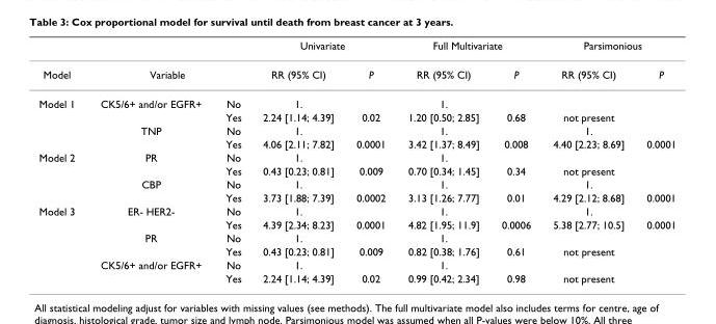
<table><thead><tr><td rowspan="2">Model</td><td></td><td></td><td colspan="2">Univariate</td><td colspan="2">Full Multivariate</td><td colspan="2">Parsimonious</td></tr><tr><td colspan="2">Variable</td><td>RR (95% CI)</td><td>P</td><td>RR (95% CI)</td><td>P</td><td>RR (95% CI)</td><td>P</td></tr></thead><tbody><tr><td rowspan="4">Model 1</td><td>CK5/6+ and/or EGFR+</td><td>No</td><td>1.</td><td></td><td>1.</td><td></td><td></td><td></td></tr><tr><td></td><td>Yes</td><td>2.24 [1.14; 4.39]</td><td>0.02</td><td>1.20 [0.50; 2.85]</td><td>0.68</td><td>not present</td><td></td></tr><tr><td>TNP</td><td>No</td><td>1.</td><td></td><td>1.</td><td></td><td>1.</td><td></td></tr><tr><td></td><td>Yes</td><td>4.06 [2.11; 7.82]</td><td>0.0001</td><td>3.42 [1.37; 8.49]</td><td>0.008</td><td>4.40 [2.23; 8.69]</td><td>0.0001</td></tr><tr><td rowspan="4">Model 2</td><td>PR</td><td>No</td><td>1.</td><td></td><td>1.</td><td></td><td></td><td></td></tr><tr><td></td><td>Yes</td><td>0.43 [0.23; 0.81]</td><td>0.009</td><td>0.70 [0.34; 1.45]</td><td>0.34</td><td>not present</td><td></td></tr><tr><td>CBP</td><td>No</td><td>1.</td><td></td><td>1.</td><td></td><td>1.</td><td></td></tr><tr><td></td><td>Yes</td><td>3.73 [1.88; 7.39]</td><td>0.0002</td><td>3.13 [1.26; 7.77]</td><td>0.01</td><td>4.29 [2.12; 8.68]</td><td>0.0001</td></tr><tr><td rowspan="6">Model 3</td><td>ER- HER2-</td><td>No</td><td>1.</td><td></td><td>1.</td><td></td><td>1.</td><td></td></tr><tr><td></td><td>Yes</td><td>4.39 [2.34; 8.23]</td><td>0.0001</td><td>4.82 [1.95; 11.9]</td><td>0.0006</td><td>5.38 [2.77; 10.5]</td><td>0.0001</td></tr><tr><td>PR</td><td>No</td><td>1.</td><td></td><td>1.</td><td></td><td></td><td></td></tr><tr><td></td><td>Yes</td><td>0.43 [0.23; 0.81]</td><td>0.009</td><td>0.82 [0.38; 1.76]</td><td>0.61</td><td>not present</td><td></td></tr><tr><td>CK5/6+ and/or EGFR+</td><td>No</td><td>1.</td><td></td><td>1.</td><td></td><td></td><td></td></tr><tr><td></td><td>Yes</td><td>2.24 [1.14; 4.39]</td><td>0.02</td><td>0.99 [0.42; 2.34]</td><td>0.98</td><td>not present</td><td></td></tr></tbody></table>